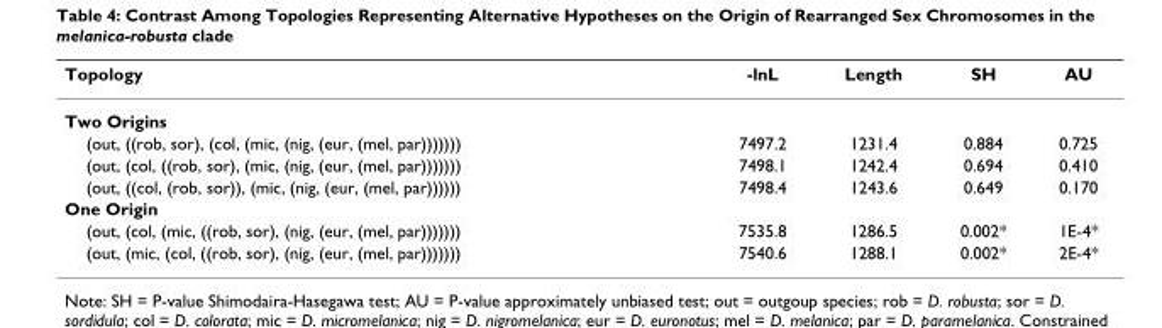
<table><thead><tr><td>Topology</td><td>-lnL</td><td>Length</td><td>SH</td><td>AU</td></tr></thead><tbody><tr><td colspan="5">Two Origins</td></tr><tr><td>(out, ((rob, sor), (col, (mic, (nig, (eur, (mel, par)))))))</td><td>7497.2</td><td>1231.4</td><td>0.884</td><td>0.725</td></tr><tr><td>(out, (col, ((rob, sor), (mic, (nig, (eur, (mel, par)))))))</td><td>7498.1</td><td>1242.4</td><td>0.694</td><td>0.410</td></tr><tr><td>(out, ((col, (rob, sor)), (mic, (nig, (eur, (mel, par))))))</td><td>7498.4</td><td>1243.6</td><td>0.649</td><td>0.170</td></tr><tr><td colspan="5">One Origin</td></tr><tr><td>(out, (col, (mic, ((rob, sor), (nig, (eur, (mel, par)))))))</td><td>7535.8</td><td>1286.5</td><td>0.002*</td><td>1E-4*</td></tr><tr><td>(out, (mic, (col, ((rob, sor), (nig, (eur, (mel, par)))))))</td><td>7540.6</td><td>1288.1</td><td>0.002*</td><td>2E-4*</td></tr></tbody></table>